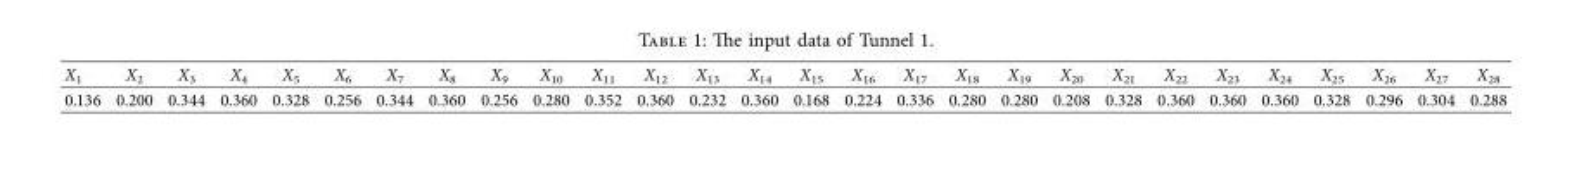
<table><thead><tr><td>X<sub>1</sub></td><td>X<sub>2</sub></td><td>X<sub>3</sub></td><td>X<sub>4</sub></td><td>X<sub>5</sub></td><td>X<sub>6</sub></td><td>X<sub>7</sub></td><td>X<sub>8</sub></td><td>X<sub>9</sub></td><td>X<sub>10</sub></td><td>X<sub>11</sub></td><td>X<sub>12</sub></td><td>X<sub>13</sub></td><td>X<sub>14</sub></td><td>X<sub>15</sub></td><td>X<sub>16</sub></td><td>X<sub>17</sub></td><td>X<sub>18</sub></td><td>X<sub>19</sub></td><td>X<sub>20</sub></td><td>X<sub>21</sub></td><td>X<sub>22</sub></td><td>X<sub>23</sub></td><td>X<sub>24</sub></td><td>X<sub>25</sub></td><td>X<sub>26</sub></td><td>X<sub>27</sub></td><td>X<sub>28</sub></td></tr></thead><tbody><tr><td>0.136</td><td>0.200</td><td>0.344</td><td>0.360</td><td>0.328</td><td>0.256</td><td>0.344</td><td>0.360</td><td>0.256</td><td>0.280</td><td>0.352</td><td>0.360</td><td>0.232</td><td>0.360</td><td>0.168</td><td>0.224</td><td>0.336</td><td>0.280</td><td>0.280</td><td>0.208</td><td>0.328</td><td>0.360</td><td>0.360</td><td>0.360</td><td>0.328</td><td>0.296</td><td>0.304</td><td>0.288</td></tr></tbody></table>